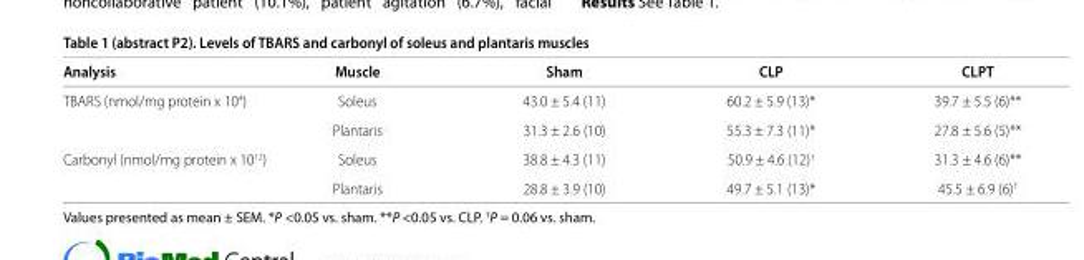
<table><thead><tr><td>Analysis</td><td>Muscle</td><td>Sham</td><td>CLP</td><td>CLPT</td></tr></thead><tbody><tr><td rowspan="2">TBARS (nmol/mg protein x 104)</td><td>Soleus</td><td>43.0 ± 5.4 (11)</td><td>60.2 ± 5.9 (13)*</td><td>39.7 ± 5.5 (6)**</td></tr><tr><td>Plantaris</td><td>31.3 ± 2.6 (10)</td><td>55.3 ± 7.3 (11)*</td><td>27.8 ± 5.6 (5)**</td></tr><tr><td rowspan="2">Carbonyl (nmol/mg protein x 1012)</td><td>Soleus</td><td>38.8 ± 4.3 (11)</td><td>50.9 ± 4.6 (12)<sup>†</sup></td><td>31.3 ± 4.6 (6)**</td></tr><tr><td>Plantaris</td><td>28.8 ± 3.9 (10)</td><td>49.7 ± 5.1 (13)*</td><td>45.5 ± 6.9 (6)<sup>†</sup></td></tr></tbody></table>